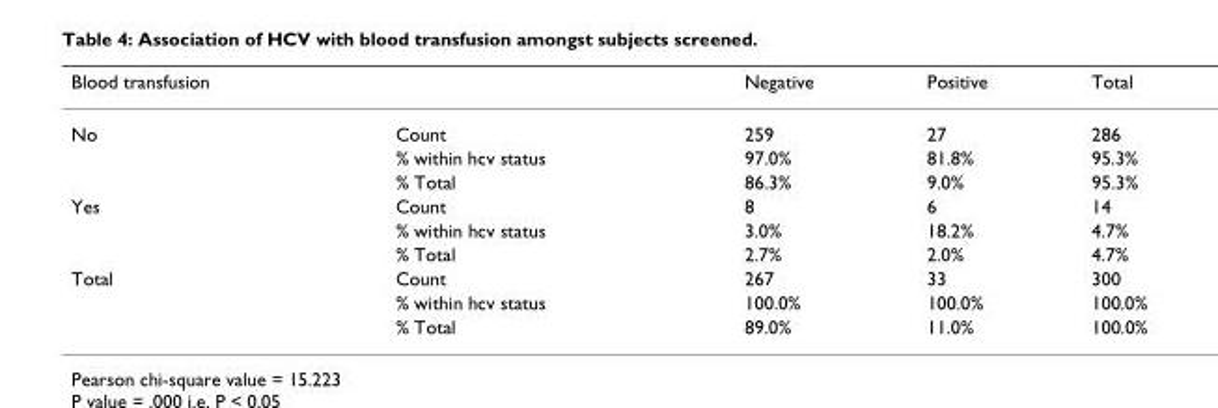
<table><thead><tr><td>Blood transfusion</td><td></td><td>Negative</td><td>Positive</td><td>Total</td></tr></thead><tbody><tr><td rowspan="3">No</td><td>Count</td><td>259</td><td>27</td><td>286</td></tr><tr><td>% within hcv status</td><td>97.0%</td><td>81.8%</td><td>95.3%</td></tr><tr><td>% Total</td><td>86.3%</td><td>9.0%</td><td>95.3%</td></tr><tr><td rowspan="3">Yes</td><td>Count</td><td>8</td><td>6</td><td>14</td></tr><tr><td>% within hcv status</td><td>3.0%</td><td>18.2%</td><td>4.7%</td></tr><tr><td>% Total</td><td>2.7%</td><td>2.0%</td><td>4.7%</td></tr><tr><td rowspan="3">Total</td><td>Count</td><td>267</td><td>33</td><td>300</td></tr><tr><td>% within hcv status</td><td>100.0%</td><td>100.0%</td><td>100.0%</td></tr><tr><td>% Total</td><td>89.0%</td><td>11.0%</td><td>100.0%</td></tr></tbody></table>